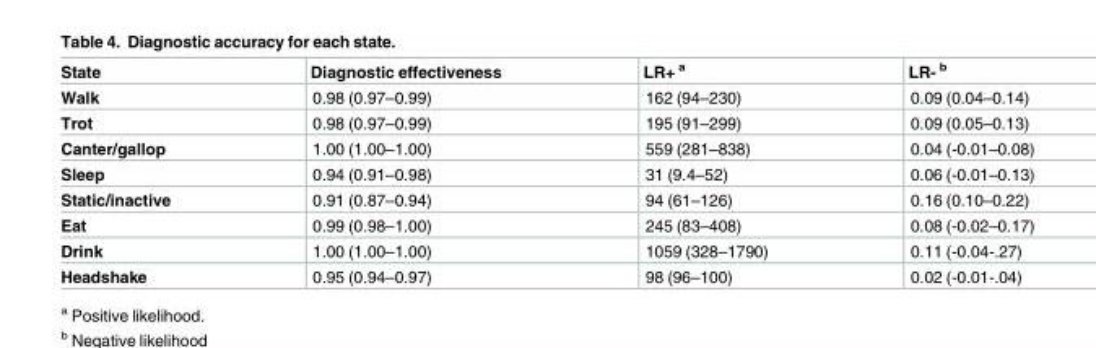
<table><thead><tr><td>State</td><td>Diagnostic effectiveness</td><td>LR+ <sup>a</sup></td><td>LR- <sup>b</sup></td></tr></thead><tbody><tr><td>Walk</td><td>0.98 (0.97–0.99)</td><td>162 (94–230)</td><td>0.09 (0.04–0.14)</td></tr><tr><td>Trot</td><td>0.98 (0.97–0.99)</td><td>195 (91–299)</td><td>0.09 (0.05–0.13)</td></tr><tr><td>Canter/gallop</td><td>1.00 (1.00–1.00)</td><td>559 (281–838)</td><td>0.04 (-0.01–0.08)</td></tr><tr><td>Sleep</td><td>0.94 (0.91–0.98)</td><td>31 (9.4–52)</td><td>0.06 (-0.01–0.13)</td></tr><tr><td>Static/inactive</td><td>0.91 (0.87–0.94)</td><td>94 (61–126)</td><td>0.16 (0.10–0.22)</td></tr><tr><td>Eat</td><td>0.99 (0.98–1.00)</td><td>245 (83–408)</td><td>0.08 (-0.02–0.17)</td></tr><tr><td>Drink</td><td>1.00 (1.00–1.00)</td><td>1059 (328–1790)</td><td>0.11 (-0.04-.27)</td></tr><tr><td>Headshake</td><td>0.95 (0.94–0.97)</td><td>98 (96–100)</td><td>0.02 (-0.01-.04)</td></tr></tbody></table>